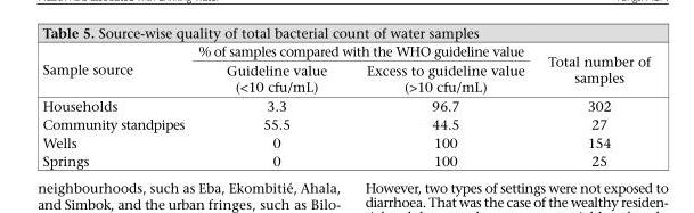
<table><thead><tr><td rowspan="2">Sample source</td><td colspan="2">% of samples compared with the WHO guideline value</td><td rowspan="2">Total number of samples</td></tr><tr><td>Guideline value (&lt;10 cfu/mL)</td><td>Excess to guideline value (&gt;10 cfu/mL)</td></tr></thead><tbody><tr><td>Households</td><td>3.3</td><td>96.7</td><td>302</td></tr><tr><td>Community standpipes</td><td>55.5</td><td>44.5</td><td>27</td></tr><tr><td>Wells</td><td>0</td><td>100</td><td>154</td></tr><tr><td>Springs</td><td>0</td><td>100</td><td>25</td></tr></tbody></table>